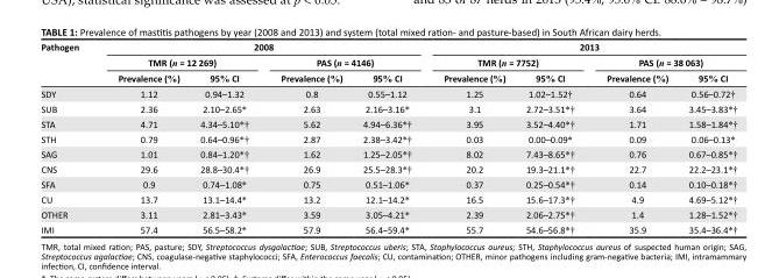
<table><thead><tr><td rowspan="3">Pathogen</td><td colspan="4">2008</td><td colspan="4">2013</td></tr><tr><td colspan="2">TMR (n = 12 269)</td><td colspan="2">PAS (n = 4146)</td><td colspan="2">TMR (n = 7752)</td><td colspan="2">PAS (n = 38 063)</td></tr><tr><td>Prevalence (%)</td><td>95% CI</td><td>Prevalence (%)</td><td>95% CI</td><td>Prevalence (%)</td><td>95% CI</td><td>Prevalence (%)</td><td>95% CI</td></tr></thead><tbody><tr><td>SDY</td><td>1.12</td><td>0.94–1.32</td><td>0.8</td><td>0.55–1.12</td><td>1.25</td><td>1.02–1.52†</td><td>0.64</td><td>0.56–0.72†</td></tr><tr><td>SUB</td><td>2.36</td><td>2.10–2.65*</td><td>2.63</td><td>2.16–3.16*</td><td>3.1</td><td>2.72–3.51*†</td><td>3.64</td><td>3.45–3.83*†</td></tr><tr><td>STA</td><td>4.71</td><td>4.34–5.10*†</td><td>5.62</td><td>4.94–6.36*†</td><td>3.95</td><td>3.52–4.40*†</td><td>1.71</td><td>1.58–1.84*†</td></tr><tr><td>STH</td><td>0.79</td><td>0.64–0.96*†</td><td>2.87</td><td>2.38–3.42*†</td><td>0.03</td><td>0.00–0.09*</td><td>0.09</td><td>0.06–0.13*</td></tr><tr><td>SAG</td><td>1.01</td><td>0.84–1.20*†</td><td>1.62</td><td>1.25–2.05*†</td><td>8.02</td><td>7.43–8.65*†</td><td>0.76</td><td>0.67–0.85*†</td></tr><tr><td>CNS</td><td>29.6</td><td>28.8–30.4*†</td><td>26.9</td><td>25.5–28.3*†</td><td>20.2</td><td>19.3–21.1*†</td><td>22.7</td><td>22.2–23.1*†</td></tr><tr><td>SFA</td><td>0.9</td><td>0.74–1.08*</td><td>0.75</td><td>0.51–1.06*</td><td>0.37</td><td>0.25–0.54*†</td><td>0.14</td><td>0.10–0.18*†</td></tr><tr><td>CU</td><td>13.7</td><td>13.1–14.4*</td><td>13.2</td><td>12.1–14.2*</td><td>16.5</td><td>15.6–17.3*†</td><td>4.9</td><td>4.69–5.12*†</td></tr><tr><td>OTHER</td><td>3.11</td><td>2.81–3.43*</td><td>3.59</td><td>3.05–4.21*</td><td>2.39</td><td>2.06–2.75*†</td><td>1.4</td><td>1.28–1.52*†</td></tr><tr><td>IMI</td><td>57.4</td><td>56.5–58.2*</td><td>57.9</td><td>56.4–59.4*</td><td>55.7</td><td>54.6–56.8*†</td><td>35.9</td><td>35.4–36.4*†</td></tr></tbody></table>